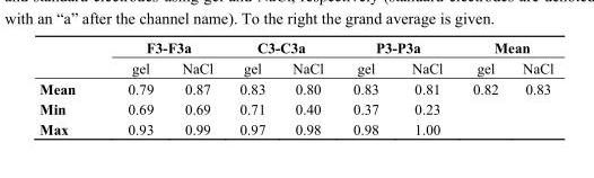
<table><thead><tr><td rowspan="2"></td><td colspan="2">F3-F3a</td><td colspan="2">C3-C3a</td><td colspan="2">P3-P3a</td><td colspan="2">Mean</td></tr><tr><td>gel</td><td>NaCl</td><td>gel</td><td>NaCl</td><td>gel</td><td>NaCl</td><td>gel</td><td>NaCl</td></tr></thead><tbody><tr><td>Mean</td><td>0.79</td><td>0.87</td><td>0.83</td><td>0.80</td><td>0.83</td><td>0.81</td><td>0.82</td><td>0.83</td></tr><tr><td>Min</td><td>0.69</td><td>0.69</td><td>0.71</td><td>0.40</td><td>0.37</td><td>0.23</td><td></td><td></td></tr><tr><td>Max</td><td>0.93</td><td>0.99</td><td>0.97</td><td>0.98</td><td>0.98</td><td>1.00</td><td></td><td></td></tr></tbody></table>